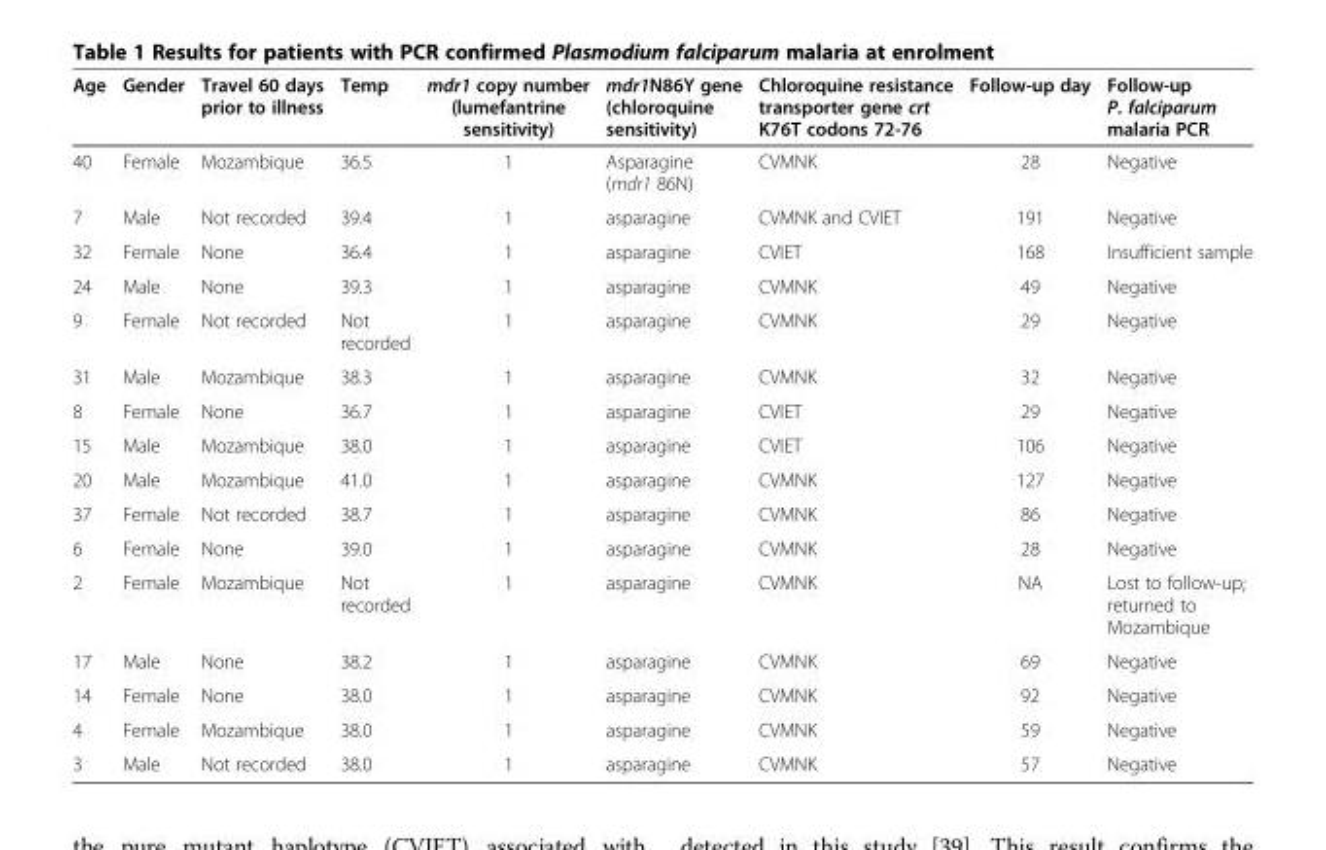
<table><thead><tr><td>Age</td><td>Gender</td><td>Travel 60 days prior to illness</td><td>Temp</td><td>mdr1 copy number (lumefantrine sensitivity)</td><td>mdr1N86Y gene (chloroquine sensitivity)</td><td>Chloroquine resistance transporter gene crt K76T codons 72-76</td><td>Follow-up day</td><td>Follow-up P. falciparum malaria PCR</td></tr></thead><tbody><tr><td>40</td><td>Female</td><td>Mozambique</td><td>36.5</td><td>1</td><td>Asparagine (mdr1 86N)</td><td>CVMNK</td><td>28</td><td>Negative</td></tr><tr><td>7</td><td>Male</td><td>Not recorded</td><td>39.4</td><td>1</td><td>asparagine</td><td>CVMNK and CVIET</td><td>191</td><td>Negative</td></tr><tr><td>32</td><td>Female</td><td>None</td><td>36.4</td><td>1</td><td>asparagine</td><td>CVIET</td><td>168</td><td>Insufficient sample</td></tr><tr><td>24</td><td>Male</td><td>None</td><td>39.3</td><td>1</td><td>asparagine</td><td>CVMNK</td><td>49</td><td>Negative</td></tr><tr><td>9</td><td>Female</td><td>Not recorded</td><td>Not recorded</td><td>1</td><td>asparagine</td><td>CVMNK</td><td>29</td><td>Negative</td></tr><tr><td>31</td><td>Male</td><td>Mozambique</td><td>38.3</td><td>1</td><td>asparagine</td><td>CVMNK</td><td>32</td><td>Negative</td></tr><tr><td>8</td><td>Female</td><td>None</td><td>36.7</td><td>1</td><td>asparagine</td><td>CVIET</td><td>29</td><td>Negative</td></tr><tr><td>15</td><td>Male</td><td>Mozambique</td><td>38.0</td><td>1</td><td>asparagine</td><td>CVIET</td><td>106</td><td>Negative</td></tr><tr><td>20</td><td>Male</td><td>Mozambique</td><td>41.0</td><td>1</td><td>asparagine</td><td>CVMNK</td><td>127</td><td>Negative</td></tr><tr><td>37</td><td>Female</td><td>Not recorded</td><td>38.7</td><td>1</td><td>asparagine</td><td>CVMNK</td><td>86</td><td>Negative</td></tr><tr><td>6</td><td>Female</td><td>None</td><td>39.0</td><td>1</td><td>asparagine</td><td>CVMNK</td><td>28</td><td>Negative</td></tr><tr><td>2</td><td>Female</td><td>Mozambique</td><td>Not recorded</td><td>1</td><td>asparagine</td><td>CVMNK</td><td>NA</td><td>Lost to follow-up; returned to Mozambique</td></tr><tr><td>17</td><td>Male</td><td>None</td><td>38.2</td><td>1</td><td>asparagine</td><td>CVMNK</td><td>69</td><td>Negative</td></tr><tr><td>14</td><td>Female</td><td>None</td><td>38.0</td><td>1</td><td>asparagine</td><td>CVMNK</td><td>92</td><td>Negative</td></tr><tr><td>4</td><td>Female</td><td>Mozambique</td><td>38.0</td><td>1</td><td>asparagine</td><td>CVMNK</td><td>59</td><td>Negative</td></tr><tr><td>3</td><td>Male</td><td>Not recorded</td><td>38.0</td><td>1</td><td>asparagine</td><td>CVMNK</td><td>57</td><td>Negative</td></tr></tbody></table>